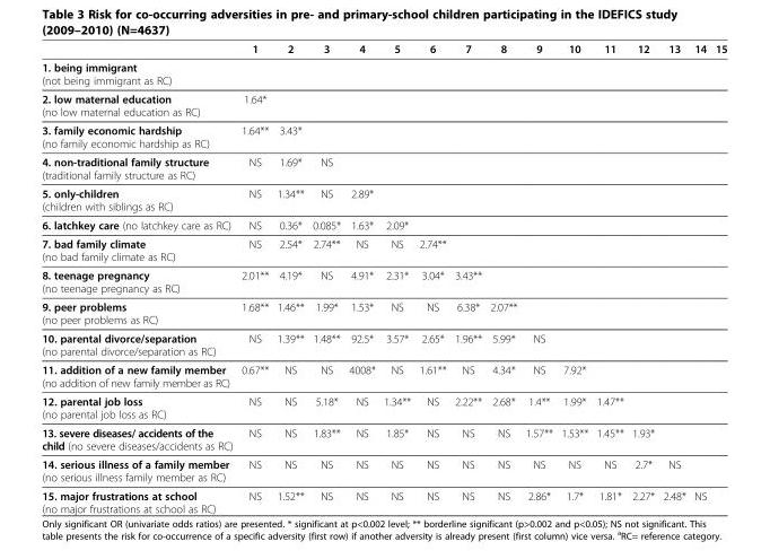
<table><thead><tr><td></td><td>1</td><td>2</td><td>3</td><td>4</td><td>5</td><td>6</td><td>7</td><td>8</td><td>9</td><td>10</td><td>11</td><td>12</td><td>13</td><td>14</td><td>15</td></tr></thead><tbody><tr><td colspan="16">1. being immigrant (not being immigrant as RC)</td></tr><tr><td>2. low maternal education (no low maternal education as RC)</td><td>1.64*</td><td></td><td></td><td></td><td></td><td></td><td></td><td></td><td></td><td></td><td></td><td></td><td></td><td></td><td></td></tr><tr><td>3. family economic hardship (no family economic hardship as RC)</td><td>1.64**</td><td>3.43*</td><td></td><td></td><td></td><td></td><td></td><td></td><td></td><td></td><td></td><td></td><td></td><td></td><td></td></tr><tr><td>4. non-traditional family structure (traditional family structure as RC)</td><td>NS</td><td>1.69*</td><td>NS</td><td></td><td></td><td></td><td></td><td></td><td></td><td></td><td></td><td></td><td></td><td></td><td></td></tr><tr><td>5. only-children (children with siblings as RC)</td><td>NS</td><td>1.34**</td><td>NS</td><td>2.89*</td><td></td><td></td><td></td><td></td><td></td><td></td><td></td><td></td><td></td><td></td><td></td></tr><tr><td>6. latchkey care (no latchkey care as RC)</td><td>NS</td><td>0.36*</td><td>0.085*</td><td>1.63*</td><td>2.09*</td><td></td><td></td><td></td><td></td><td></td><td></td><td></td><td></td><td></td><td></td></tr><tr><td>7. bad family climate (no bad family climate as RC)</td><td>NS</td><td>2.54*</td><td>2.74**</td><td>NS</td><td>NS</td><td>2.74**</td><td></td><td></td><td></td><td></td><td></td><td></td><td></td><td></td><td></td></tr><tr><td>8. teenage pregnancy (no teenage pregnancy as RC)</td><td>2.01**</td><td>4.19*</td><td>NS</td><td>4.91*</td><td>2.31*</td><td>3.04*</td><td>3.43**</td><td></td><td></td><td></td><td></td><td></td><td></td><td></td><td></td></tr><tr><td>9. peer problems (no peer problems as RC)</td><td>1.68**</td><td>1.46**</td><td>1.99*</td><td>1.53*</td><td>NS</td><td>NS</td><td>6.38*</td><td>2.07**</td><td></td><td></td><td></td><td></td><td></td><td></td><td></td></tr><tr><td>10. parental divorce/separation (no parental divorce/separation as RC)</td><td>NS</td><td>1.39**</td><td>1.48**</td><td>92.5*</td><td>3.57*</td><td>2.65*</td><td>1.96**</td><td>5.99*</td><td>NS</td><td></td><td></td><td></td><td></td><td></td><td></td></tr><tr><td>11. addition of a new family member (no addition of new family member as RC)</td><td>0.67**</td><td>NS</td><td>NS</td><td>4008*</td><td>NS</td><td>1.61**</td><td>NS</td><td>4.34*</td><td>NS</td><td>7.92*</td><td></td><td></td><td></td><td></td><td></td></tr><tr><td>12. parental job loss (no parental job loss as RC)</td><td>NS</td><td>NS</td><td>5.18*</td><td>NS</td><td>1.34**</td><td>NS</td><td>2.22**</td><td>2.68*</td><td>1.4**</td><td>1.99*</td><td>1.47**</td><td></td><td></td><td></td><td></td></tr><tr><td>13. severe diseases/ accidents of the child (no severe diseases/accidents as RC)</td><td>NS</td><td>NS</td><td>1.83**</td><td>NS</td><td>1.85*</td><td>NS</td><td>NS</td><td>NS</td><td>1.57**</td><td>1.53**</td><td>1.45**</td><td>1.93*</td><td></td><td></td><td></td></tr><tr><td>14. serious illness of a family member (no serious illness family member as RC)</td><td>NS</td><td>NS</td><td>NS</td><td>NS</td><td>NS</td><td>NS</td><td>NS</td><td>NS</td><td>NS</td><td>NS</td><td>NS</td><td>2.7*</td><td>NS</td><td></td><td></td></tr><tr><td>15. major frustrations at school (no major frustrations at school as RC)</td><td>NS</td><td>1.52**</td><td>NS</td><td>NS</td><td>NS</td><td>NS</td><td>NS</td><td>NS</td><td>2.86*</td><td>1.7*</td><td>1.81*</td><td>2.27*</td><td>2.48*</td><td>NS</td><td></td></tr></tbody></table>